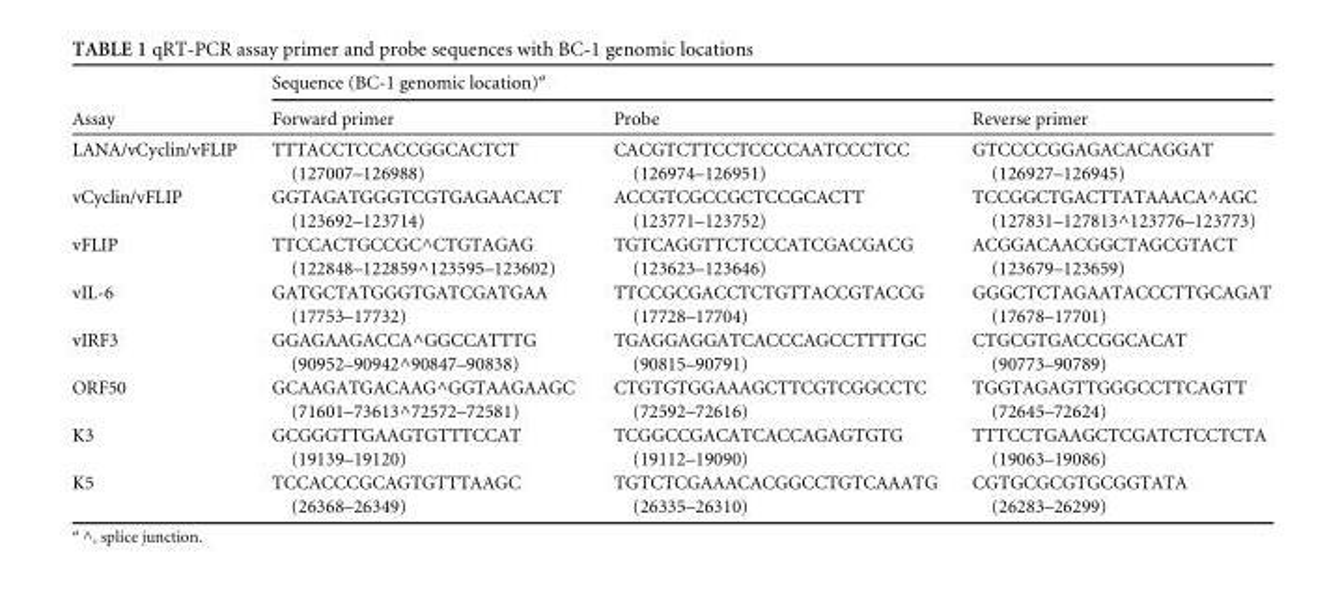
<table><thead><tr><td rowspan="2">Assay</td><td colspan="3">Sequence (BC-1 genomic location)<sup>a</sup></td></tr><tr><td>Forward primer</td><td>Probe</td><td>Reverse primer</td></tr></thead><tbody><tr><td>LANA/vCyclin/vFLIP</td><td>TTTACCTCCACCGGCACTCT (127007–126988)</td><td>CACGTCTTCCTCCCCAATCCCTCC (126974–126951)</td><td>GTCCCCGGAGACACAGGAT (126927–126945)</td></tr><tr><td>vCyclin/vFLIP</td><td>GGTAGATGGGTCGTGAGAACACT (123692–123714)</td><td>ACCGTCGCCGCTCCGCACTT (123771–123752)</td><td>TCCGGCTGACTTATAAACA^AGC (127831–127813^123776–123773)</td></tr><tr><td>vFLIP</td><td>TTCCACTGCCGC^CTGTAGAG (122848–122859^123595–123602)</td><td>TGTCAGGTTCTCCCATCGACGACG (123623–123646)</td><td>ACGGACAACGGCTAGCGTACT (123679–123659)</td></tr><tr><td>vIL-6</td><td>GATGCTATGGGTGATCGATGAA (17753–17732)</td><td>TTCCGCGACCTCTGTTACCGTACCG (17728–17704)</td><td>GGGCTCTAGAATACCCTTGCAGAT (17678–17701)</td></tr><tr><td>vIRF3</td><td>GGAGAAGACCA^GGCCATTTG (90952–90942^90847–90838)</td><td>TGAGGAGGATCACCCAGCCTTTTGC (90815–90791)</td><td>CTGCGTGACCGGCACAT (90773–90789)</td></tr><tr><td>ORF50</td><td>GCAAGATGACAAG^GGTAAGAAGC (71601–73613^72572–72581)</td><td>CTGTGTGGAAAGCTTCGTCGGCCTC (72592–72616)</td><td>TGGTAGAGTTGGGCCTTCAGTT (72645–72624)</td></tr><tr><td>K3</td><td>GCGGGTTGAAGTGTTTCCAT (19139–19120)</td><td>TCGGCCGACATCACCAGAGTGTG (19112–19090)</td><td>TTTCCTGAAGCTCGATCTCCTCTA (19063–19086)</td></tr><tr><td>K5</td><td>TCCACCCGCAGTGTTTAAGC (26368–26349)</td><td>TGTCTCGAAACACGGCCTGTCAAATG (26335–26310)</td><td>CGTGCGCGTGCGGTATA (26283–26299)</td></tr></tbody></table>